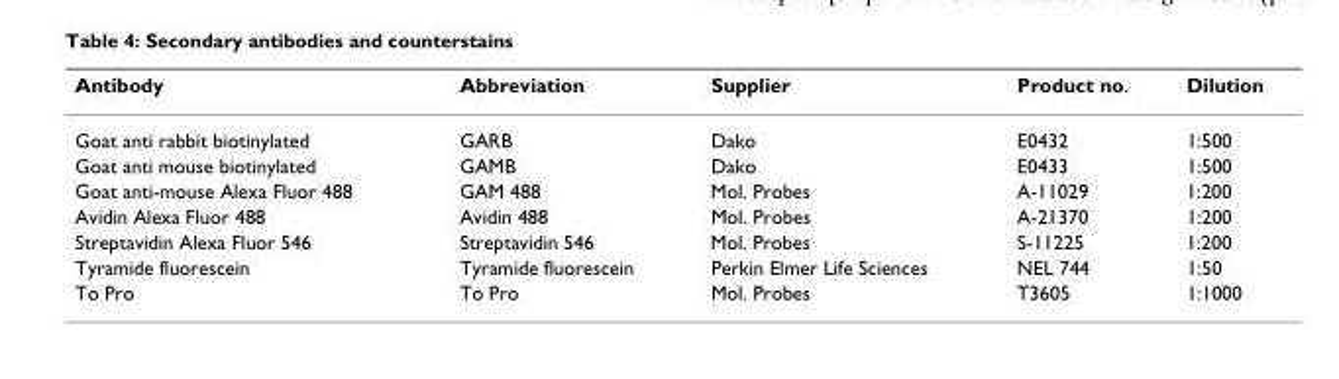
<table><thead><tr><td>Antibody</td><td>Abbreviation</td><td>Supplier</td><td>Product no.</td><td>Dilution</td></tr></thead><tbody><tr><td>Goat anti rabbit biotinylated</td><td>GARB</td><td>Dako</td><td>E0432</td><td>1:500</td></tr><tr><td>Goat anti mouse biotinylated</td><td>GAMB</td><td>Dako</td><td>E0433</td><td>1:500</td></tr><tr><td>Goat anti-mouse Alexa Fluor 488</td><td>GAM 488</td><td>Mol. Probes</td><td>A-11029</td><td>1:200</td></tr><tr><td>Avidin Alexa Fluor 488</td><td>Avidin 488</td><td>Mol. Probes</td><td>A-21370</td><td>1:200</td></tr><tr><td>Streptavidin Alexa Fluor 546</td><td>Streptavidin 546</td><td>Mol. Probes</td><td>S-11225</td><td>1:200</td></tr><tr><td>Tyramide fluorescein</td><td>Tyramide fluorescein</td><td>Perkin Elmer Life Sciences</td><td>NEL 744</td><td>1:50</td></tr><tr><td>To Pro</td><td>To Pro</td><td>Mol. Probes</td><td>T3605</td><td>1:1000</td></tr></tbody></table>